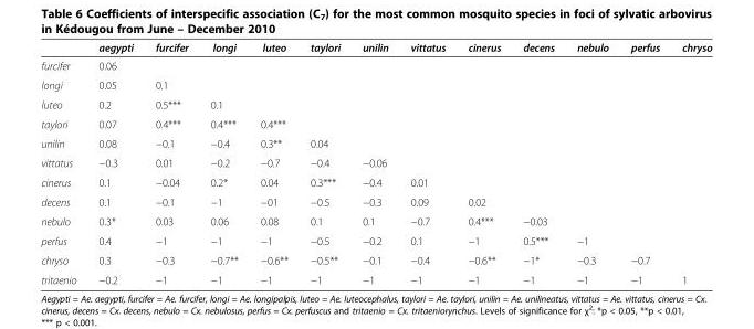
<table><thead><tr><td></td><td>aegypti</td><td>furcifer</td><td>longi</td><td>luteo</td><td>taylori</td><td>unilin</td><td>vittatus</td><td>cinerus</td><td>decens</td><td>nebulo</td><td>perfus</td><td>chryso</td></tr></thead><tbody><tr><td>furcifer</td><td>0.06</td><td></td><td></td><td></td><td></td><td></td><td></td><td></td><td></td><td></td><td></td><td></td></tr><tr><td>longi</td><td>0.05</td><td>0.1</td><td></td><td></td><td></td><td></td><td></td><td></td><td></td><td></td><td></td><td></td></tr><tr><td>luteo</td><td>0.2</td><td>0.5***</td><td>0.1</td><td></td><td></td><td></td><td></td><td></td><td></td><td></td><td></td><td></td></tr><tr><td>taylori</td><td>0.07</td><td>0.4***</td><td>0.4***</td><td>0.4***</td><td></td><td></td><td></td><td></td><td></td><td></td><td></td><td></td></tr><tr><td>unilin</td><td>0.08</td><td>−0.1</td><td>−0.4</td><td>0.3**</td><td>0.04</td><td></td><td></td><td></td><td></td><td></td><td></td><td></td></tr><tr><td>vittatus</td><td>−0.3</td><td>0.01</td><td>−0.2</td><td>−0.7</td><td>−0.4</td><td>−0.06</td><td></td><td></td><td></td><td></td><td></td><td></td></tr><tr><td>cinerus</td><td>0.1</td><td>−0.04</td><td>0.2*</td><td>0.04</td><td>0.3***</td><td>−0.4</td><td>0.01</td><td></td><td></td><td></td><td></td><td></td></tr><tr><td>decens</td><td>0.1</td><td>−0.1</td><td>−1</td><td>−01</td><td>−0.5</td><td>−0.3</td><td>0.09</td><td>0.02</td><td></td><td></td><td></td><td></td></tr><tr><td>nebulo</td><td>0.3*</td><td>0.03</td><td>0.06</td><td>0.08</td><td>0.1</td><td>0.1</td><td>−0.7</td><td>0.4***</td><td>−0.03</td><td></td><td></td><td></td></tr><tr><td>perfus</td><td>0.4</td><td>−1</td><td>−1</td><td>−1</td><td>−0.5</td><td>−0.2</td><td>0.1</td><td>−1</td><td>0.5***</td><td>−1</td><td></td><td></td></tr><tr><td>chryso</td><td>0.3</td><td>−0.3</td><td>−0.7**</td><td>−0.6**</td><td>−0.5**</td><td>−0.1</td><td>−0.4</td><td>−0.6**</td><td>−1*</td><td>−0.3</td><td>−0.7</td><td></td></tr><tr><td>tritaenio</td><td>−0.2</td><td>−1</td><td>−1</td><td>−1</td><td>−1</td><td>−1</td><td>−1</td><td>−1</td><td>−1</td><td>−1</td><td>−1</td><td>1</td></tr></tbody></table>